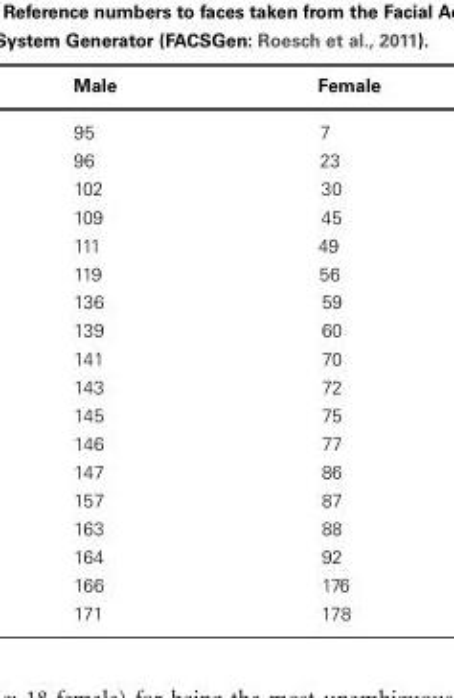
<table><thead><tr><td>Male</td><td>Female</td></tr></thead><tbody><tr><td>95</td><td>7</td></tr><tr><td>96</td><td>23</td></tr><tr><td>102</td><td>30</td></tr><tr><td>109</td><td>45</td></tr><tr><td>111</td><td>49</td></tr><tr><td>119</td><td>56</td></tr><tr><td>136</td><td>59</td></tr><tr><td>139</td><td>60</td></tr><tr><td>141</td><td>70</td></tr><tr><td>143</td><td>72</td></tr><tr><td>145</td><td>75</td></tr><tr><td>146</td><td>77</td></tr><tr><td>147</td><td>86</td></tr><tr><td>157</td><td>87</td></tr><tr><td>163</td><td>88</td></tr><tr><td>164</td><td>92</td></tr><tr><td>166</td><td>176</td></tr><tr><td>171</td><td>178</td></tr></tbody></table>